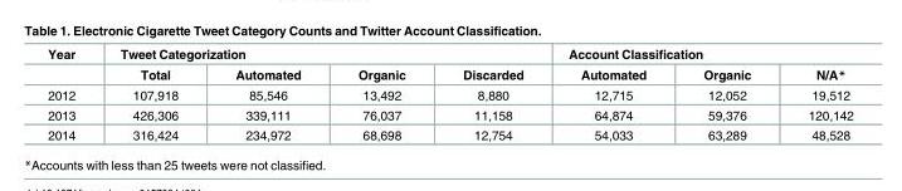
<table><thead><tr><td rowspan="2">Year</td><td colspan="4">Tweet Categorization</td><td colspan="3">Account Classification</td></tr><tr><td>Total</td><td>Automated</td><td>Organic</td><td>Discarded</td><td>Automated</td><td>Organic</td><td>N/A*</td></tr></thead><tbody><tr><td>2012</td><td>107,918</td><td>85,546</td><td>13,492</td><td>8,880</td><td>12,715</td><td>12,052</td><td>19,512</td></tr><tr><td>2013</td><td>426,306</td><td>339,111</td><td>76,037</td><td>11,158</td><td>64,874</td><td>59,376</td><td>120,142</td></tr><tr><td>2014</td><td>316,424</td><td>234,972</td><td>68,698</td><td>12,754</td><td>54,033</td><td>63,289</td><td>48,528</td></tr></tbody></table>